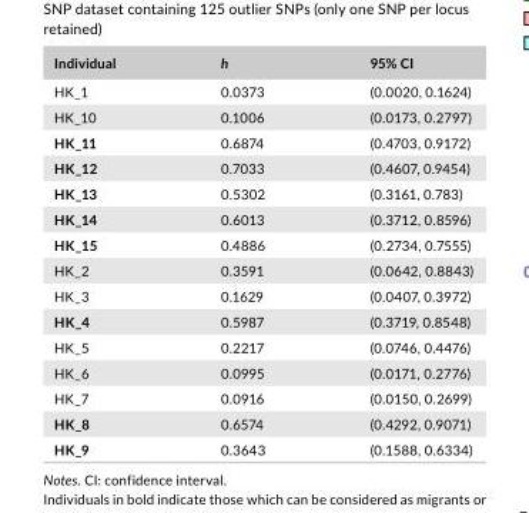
<table><thead><tr><td>Individual</td><td>h</td><td>95% CI</td></tr></thead><tbody><tr><td>HK_1</td><td>0.0373</td><td>(0.0020, 0.1624)</td></tr><tr><td>HK_10</td><td>0.1006</td><td>(0.0173, 0.2797)</td></tr><tr><td>HK_11</td><td>0.6874</td><td>(0.4703, 0.9172)</td></tr><tr><td>HK_12</td><td>0.7033</td><td>(0.4607, 0.9454)</td></tr><tr><td>HK_13</td><td>0.5302</td><td>(0.3161, 0.783)</td></tr><tr><td>HK_14</td><td>0.6013</td><td>(0.3712, 0.8596)</td></tr><tr><td>HK_15</td><td>0.4886</td><td>(0.2734, 0.7555)</td></tr><tr><td>HK_2</td><td>0.3591</td><td>(0.0642, 0.8843)</td></tr><tr><td>HK_3</td><td>0.1629</td><td>(0.0407, 0.3972)</td></tr><tr><td>HK_4</td><td>0.5987</td><td>(0.3719, 0.8548)</td></tr><tr><td>HK_5</td><td>0.2217</td><td>(0.0746, 0.4476)</td></tr><tr><td>HK_6</td><td>0.0995</td><td>(0.0171, 0.2776)</td></tr><tr><td>HK_7</td><td>0.0916</td><td>(0.0150, 0.2699)</td></tr><tr><td>HK_8</td><td>0.6574</td><td>(0.4292, 0.9071)</td></tr><tr><td>HK_9</td><td>0.3643</td><td>(0.1588, 0.6334)</td></tr></tbody></table>